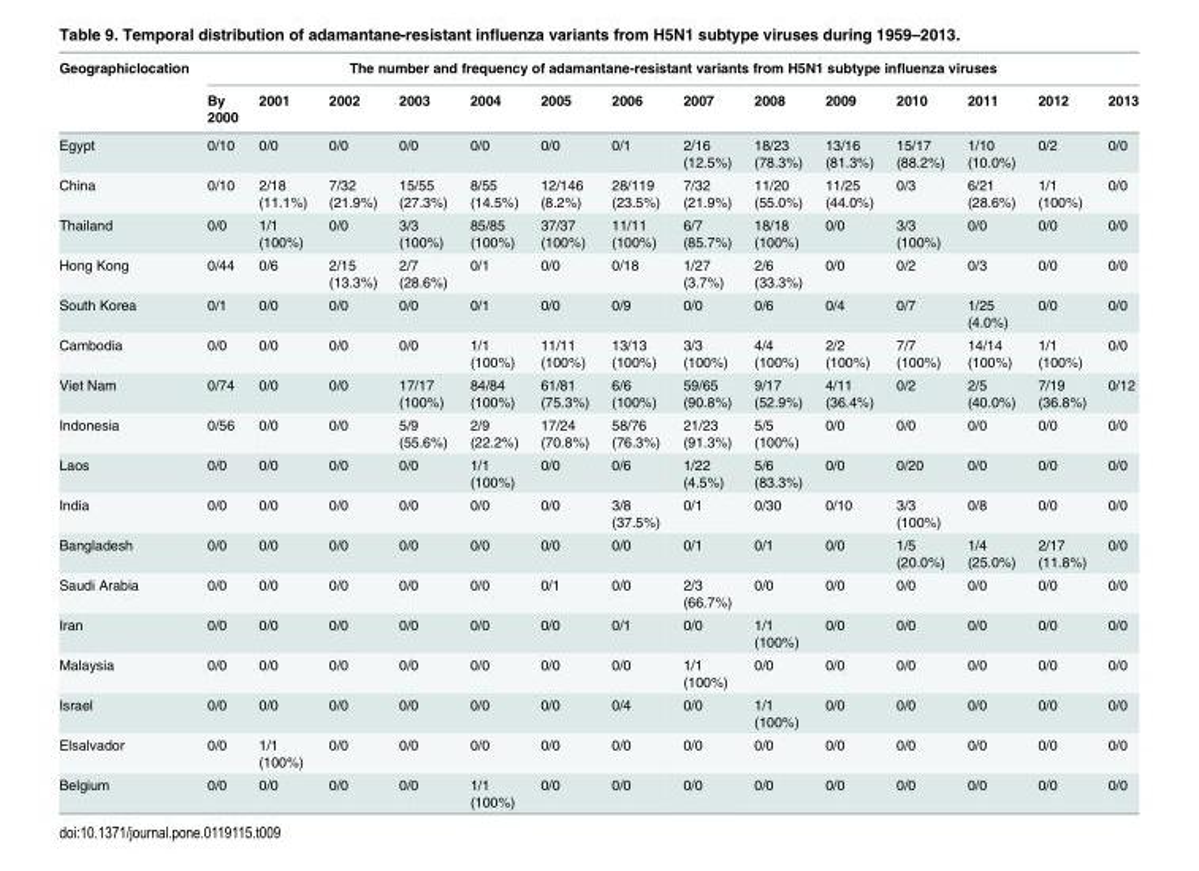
<table><thead><tr><td rowspan="2">Geographiclocation</td><td colspan="14">The number and frequency of adamantane-resistant variants from H5N1 subtype influenza viruses</td></tr><tr><td>By 2000</td><td>2001</td><td>2002</td><td>2003</td><td>2004</td><td>2005</td><td>2006</td><td>2007</td><td>2008</td><td>2009</td><td>2010</td><td>2011</td><td>2012</td><td>2013</td></tr></thead><tbody><tr><td>Egypt</td><td>0/10</td><td>0/0</td><td>0/0</td><td>0/0</td><td>0/0</td><td>0/0</td><td>0/1</td><td>2/16 (12.5%)</td><td>18/23 (78.3%)</td><td>13/16 (81.3%)</td><td>15/17 (88.2%)</td><td>1/10 (10.0%)</td><td>0/2</td><td>0/0</td></tr><tr><td>China</td><td>0/10</td><td>2/18 (11.1%)</td><td>7/32 (21.9%)</td><td>15/55 (27.3%)</td><td>8/55 (14.5%)</td><td>12/146 (8.2%)</td><td>28/119 (23.5%)</td><td>7/32 (21.9%)</td><td>11/20 (55.0%)</td><td>11/25 (44.0%)</td><td>0/3</td><td>6/21 (28.6%)</td><td>1/1 (100%)</td><td>0/0</td></tr><tr><td>Thailand</td><td>0/0</td><td>1/1 (100%)</td><td>0/0</td><td>3/3 (100%)</td><td>85/85 (100%)</td><td>37/37 (100%)</td><td>11/11 (100%)</td><td>6/7 (85.7%)</td><td>18/18 (100%)</td><td>0/0</td><td>3/3 (100%)</td><td>0/0</td><td>0/0</td><td>0/0</td></tr><tr><td>Hong Kong</td><td>0/44</td><td>0/6</td><td>2/15 (13.3%)</td><td>2/7 (28.6%)</td><td>0/1</td><td>0/0</td><td>0/18</td><td>1/27 (3.7%)</td><td>2/6 (33.3%)</td><td>0/0</td><td>0/2</td><td>0/3</td><td>0/0</td><td>0/0</td></tr><tr><td>South Korea</td><td>0/1</td><td>0/0</td><td>0/0</td><td>0/0</td><td>0/1</td><td>0/0</td><td>0/9</td><td>0/0</td><td>0/6</td><td>0/4</td><td>0/7</td><td>1/25 (4.0%)</td><td>0/0</td><td>0/0</td></tr><tr><td>Cambodia</td><td>0/0</td><td>0/0</td><td>0/0</td><td>0/0</td><td>1/1 (100%)</td><td>11/11 (100%)</td><td>13/13 (100%)</td><td>3/3 (100%)</td><td>4/4 (100%)</td><td>2/2 (100%)</td><td>7/7 (100%)</td><td>14/14 (100%)</td><td>1/1 (100%)</td><td>0/0</td></tr><tr><td>Viet Nam</td><td>0/74</td><td>0/0</td><td>0/0</td><td>17/17 (100%)</td><td>84/84 (100%)</td><td>61/81 (75.3%)</td><td>6/6 (100%)</td><td>59/65 (90.8%)</td><td>9/17 (52.9%)</td><td>4/11 (36.4%)</td><td>0/2</td><td>2/5 (40.0%)</td><td>7/19 (36.8%)</td><td>0/12</td></tr><tr><td>Indonesia</td><td>0/56</td><td>0/0</td><td>0/0</td><td>5/9 (55.6%)</td><td>2/9 (22.2%)</td><td>17/24 (70.8%)</td><td>58/76 (76.3%)</td><td>21/23 (91.3%)</td><td>5/5 (100%)</td><td>0/0</td><td>0/0</td><td>0/0</td><td>0/0</td><td>0/0</td></tr><tr><td>Laos</td><td>0/0</td><td>0/0</td><td>0/0</td><td>0/0</td><td>1/1 (100%)</td><td>0/0</td><td>0/6</td><td>1/22 (4.5%)</td><td>5/6 (83.3%)</td><td>0/0</td><td>0/20</td><td>0/0</td><td>0/0</td><td>0/0</td></tr><tr><td>India</td><td>0/0</td><td>0/0</td><td>0/0</td><td>0/0</td><td>0/0</td><td>0/0</td><td>3/8 (37.5%)</td><td>0/1</td><td>0/30</td><td>0/10</td><td>3/3 (100%)</td><td>0/8</td><td>0/0</td><td>0/0</td></tr><tr><td>Bangladesh</td><td>0/0</td><td>0/0</td><td>0/0</td><td>0/0</td><td>0/0</td><td>0/0</td><td>0/0</td><td>0/1</td><td>0/1</td><td>0/0</td><td>1/5 (20.0%)</td><td>1/4 (25.0%)</td><td>2/17 (11.8%)</td><td>0/0</td></tr><tr><td>Saudi Arabia</td><td>0/0</td><td>0/0</td><td>0/0</td><td>0/0</td><td>0/0</td><td>0/1</td><td>0/0</td><td>2/3 (66.7%)</td><td>0/0</td><td>0/0</td><td>0/0</td><td>0/0</td><td>0/0</td><td>0/0</td></tr><tr><td>Iran</td><td>0/0</td><td>0/0</td><td>0/0</td><td>0/0</td><td>0/0</td><td>0/0</td><td>0/1</td><td>0/0</td><td>1/1 (100%)</td><td>0/0</td><td>0/0</td><td>0/0</td><td>0/0</td><td>0/0</td></tr><tr><td>Malaysia</td><td>0/0</td><td>0/0</td><td>0/0</td><td>0/0</td><td>0/0</td><td>0/0</td><td>0/0</td><td>1/1 (100%)</td><td>0/0</td><td>0/0</td><td>0/0</td><td>0/0</td><td>0/0</td><td>0/0</td></tr><tr><td>Israel</td><td>0/0</td><td>0/0</td><td>0/0</td><td>0/0</td><td>0/0</td><td>0/0</td><td>0/4</td><td>0/0</td><td>1/1 (100%)</td><td>0/0</td><td>0/0</td><td>0/0</td><td>0/0</td><td>0/0</td></tr><tr><td>Elsalvador</td><td>0/0</td><td>1/1 (100%)</td><td>0/0</td><td>0/0</td><td>0/0</td><td>0/0</td><td>0/0</td><td>0/0</td><td>0/0</td><td>0/0</td><td>0/0</td><td>0/0</td><td>0/0</td><td>0/0</td></tr><tr><td>Belgium</td><td>0/0</td><td>0/0</td><td>0/0</td><td>0/0</td><td>1/1 (100%)</td><td>0/0</td><td>0/0</td><td>0/0</td><td>0/0</td><td>0/0</td><td>0/0</td><td>0/0</td><td>0/0</td><td>0/0</td></tr></tbody></table>